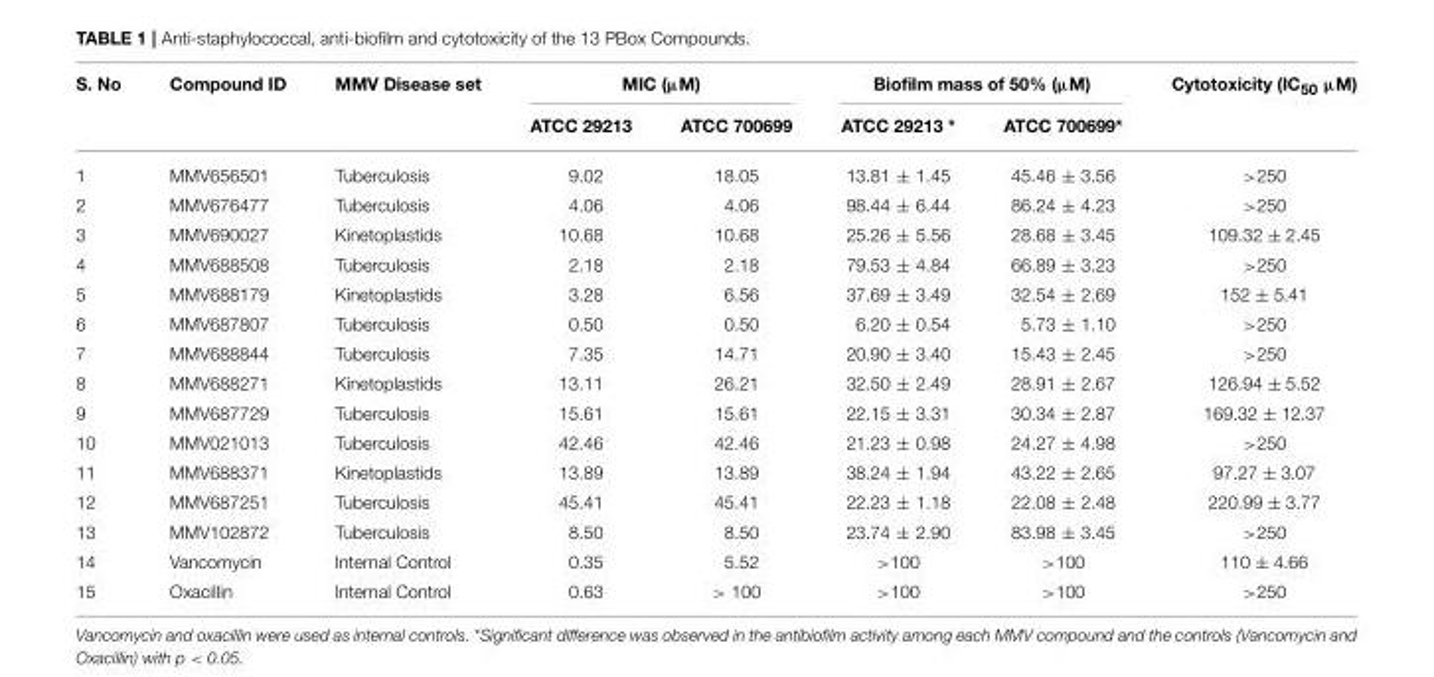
<table><thead><tr><td rowspan="2">S. No</td><td rowspan="2">Compound ID</td><td rowspan="2">MMV Disease set</td><td colspan="2">MIC (µM)</td><td colspan="2">Biofilm mass of 50% (µM)</td><td rowspan="2">Cytotoxicity (IC<sub>50</sub> µM)</td></tr><tr><td>ATCC 29213</td><td>ATCC 700699</td><td>ATCC 29213 *</td><td>ATCC 700699*</td></tr></thead><tbody><tr><td>1</td><td>MMV656501</td><td>Tuberculosis</td><td>9.02</td><td>18.05</td><td>13.81 ± 1.45</td><td>45.46 ± 3.56</td><td>&gt;250</td></tr><tr><td>2</td><td>MMV676477</td><td>Tuberculosis</td><td>4.06</td><td>4.06</td><td>98.44 ± 6.44</td><td>86.24 ± 4.23</td><td>&gt;250</td></tr><tr><td>3</td><td>MMV690027</td><td>Kinetoplastids</td><td>10.68</td><td>10.68</td><td>25.26 ± 5.56</td><td>28.68 ± 3.45</td><td>109.32 ± 2.45</td></tr><tr><td>4</td><td>MMV688508</td><td>Tuberculosis</td><td>2.18</td><td>2.18</td><td>79.53 ± 4.84</td><td>66.89 ± 3.23</td><td>&gt;250</td></tr><tr><td>5</td><td>MMV688179</td><td>Kinetoplastids</td><td>3.28</td><td>6.56</td><td>37.69 ± 3.49</td><td>32.54 ± 2.69</td><td>152 ± 5.41</td></tr><tr><td>6</td><td>MMV687807</td><td>Tuberculosis</td><td>0.50</td><td>0.50</td><td>6.20 ± 0.54</td><td>5.73 ± 1.10</td><td>&gt;250</td></tr><tr><td>7</td><td>MMV688844</td><td>Tuberculosis</td><td>7.35</td><td>14.71</td><td>20.90 ± 3.40</td><td>15.43 ± 2.45</td><td>&gt;250</td></tr><tr><td>8</td><td>MMV688271</td><td>Kinetoplastids</td><td>13.11</td><td>26.21</td><td>32.50 ± 2.49</td><td>28.91 ± 2.67</td><td>126.94 ± 5.52</td></tr><tr><td>9</td><td>MMV687729</td><td>Tuberculosis</td><td>15.61</td><td>15.61</td><td>22.15 ± 3.31</td><td>30.34 ± 2.87</td><td>169.32 ± 12.37</td></tr><tr><td>10</td><td>MMV021013</td><td>Tuberculosis</td><td>42.46</td><td>42.46</td><td>21.23 ± 0.98</td><td>24.27 ± 4.98</td><td>&gt;250</td></tr><tr><td>11</td><td>MMV688371</td><td>Kinetoplastids</td><td>13.89</td><td>13.89</td><td>38.24 ± 1.94</td><td>43.22 ± 2.65</td><td>97.27 ± 3.07</td></tr><tr><td>12</td><td>MMV687251</td><td>Tuberculosis</td><td>45.41</td><td>45.41</td><td>22.23 ± 1.18</td><td>22.08 ± 2.48</td><td>220.99 ± 3.77</td></tr><tr><td>13</td><td>MMV102872</td><td>Tuberculosis</td><td>8.50</td><td>8.50</td><td>23.74 ± 2.90</td><td>83.98 ± 3.45</td><td>&gt;250</td></tr><tr><td>14</td><td>Vancomycin</td><td>Internal Control</td><td>0.35</td><td>5.52</td><td>&gt;100</td><td>&gt;100</td><td>110 ± 4.66</td></tr><tr><td>15</td><td>Oxacillin</td><td>Internal Control</td><td>0.63</td><td>&gt; 100</td><td>&gt;100</td><td>&gt;100</td><td>&gt;250</td></tr></tbody></table>